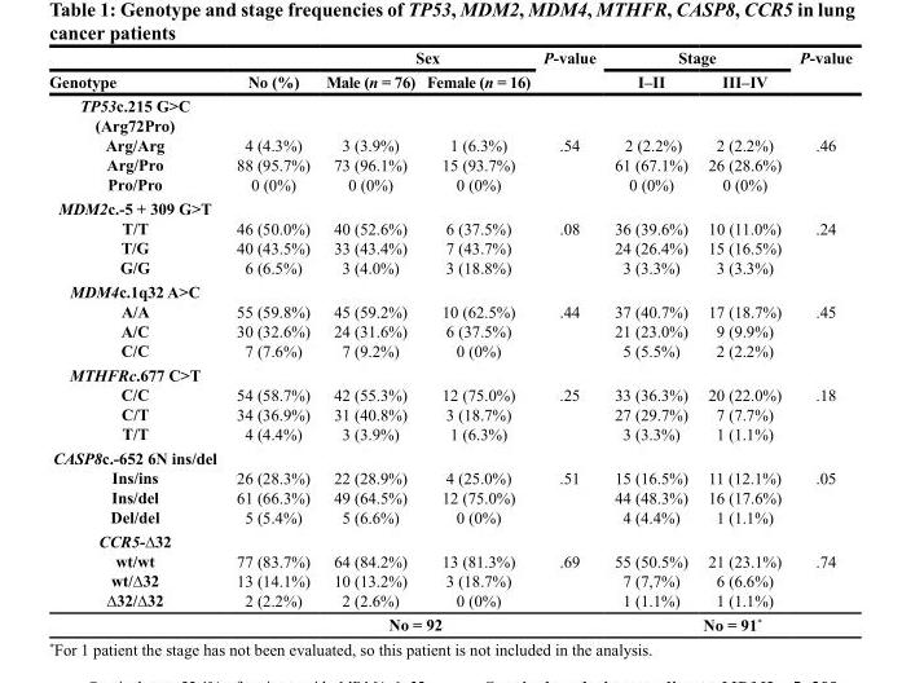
<table><thead><tr><td rowspan="2">Genotype</td><td rowspan="2">No (%)</td><td colspan="2">Sex</td><td rowspan="2">P-value</td><td colspan="2">Stage</td><td rowspan="2">P-value</td></tr><tr><td>Male (n = 76)</td><td>Female (n = 16)</td><td>I–II</td><td>III–IV</td></tr></thead><tbody><tr><td>TP53c.215 G&gt;C (Arg72Pro) Arg/Arg Arg/Pro Pro/Pro</td><td>4 (4.3%) 88 (95.7%) 0 (0%)</td><td>3 (3.9%) 73 (96.1%) 0 (0%)</td><td>1 (6.3%) 15 (93.7%) 0 (0%)</td><td>.54</td><td>2 (2.2%) 61 (67.1%) 0 (0%)</td><td>2 (2.2%) 26 (28.6%) 0 (0%)</td><td>.46</td></tr><tr><td>MDM2c.-5 + 309 G&gt;T T/T T/G G/G</td><td>46 (50.0%) 40 (43.5%) 6 (6.5%)</td><td>40 (52.6%) 33 (43.4%) 3 (4.0%)</td><td>6 (37.5%) 7 (43.7%) 3 (18.8%)</td><td>.08</td><td>36 (39.6%) 24 (26.4%) 3 (3.3%)</td><td>10 (11.0%) 15 (16.5%) 3 (3.3%)</td><td>.24</td></tr><tr><td>MDM4c.1q32 A&gt;C A/A A/C C/C</td><td>55 (59.8%) 30 (32.6%) 7 (7.6%)</td><td>45 (59.2%) 24 (31.6%) 7 (9.2%)</td><td>10 (62.5%) 6 (37.5%) 0 (0%)</td><td>.44</td><td>37 (40.7%) 21 (23.0%) 5 (5.5%)</td><td>17 (18.7%) 9 (9.9%) 2 (2.2%)</td><td>.45</td></tr><tr><td>MTHFRc.677 C&gt;T C/C C/T T/T</td><td>54 (58.7%) 34 (36.9%) 4 (4.4%)</td><td>42 (55.3%) 31 (40.8%) 3 (3.9%)</td><td>12 (75.0%) 3 (18.7%) 1 (6.3%)</td><td>.25</td><td>33 (36.3%) 27 (29.7%) 3 (3.3%)</td><td>20 (22.0%) 7 (7.7%) 1 (1.1%)</td><td>.18</td></tr><tr><td>CASP8c.-652 6N ins/del Ins/ins Ins/del Del/del</td><td>26 (28.3%) 61 (66.3%) 5 (5.4%)</td><td>22 (28.9%) 49 (64.5%) 5 (6.6%)</td><td>4 (25.0%) 12 (75.0%) 0 (0%)</td><td>.51</td><td>15 (16.5%) 44 (48.3%) 4 (4.4%)</td><td>11 (12.1%) 16 (17.6%) 1 (1.1%)</td><td>.05</td></tr><tr><td rowspan="2">CCR5-∆32 wt/wt wt/∆32 ∆32/∆32</td><td>77 (83.7%) 13 (14.1%) 2 (2.2%)</td><td>64 (84.2%) 10 (13.2%) 2 (2.6%)</td><td>13 (81.3%) 3 (18.7%) 0 (0%)</td><td>.69</td><td>55 (50.5%) 7 (7,7%) 1 (1.1%)</td><td>21 (23.1%) 6 (6.6%) 1 (1.1%)</td><td>.74</td></tr><tr><td colspan="4">No = 92</td><td colspan="3">No = 91*</td></tr></tbody></table>